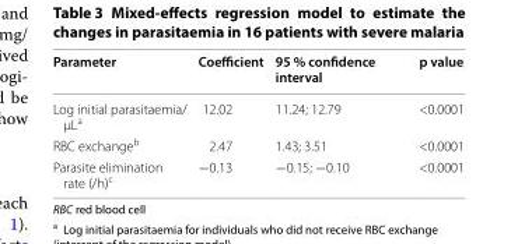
<table><thead><tr><td>Parameter</td><td>Coefficient</td><td>95 % confidence interval</td><td>p value</td></tr></thead><tbody><tr><td>Log initial parasitaemia/ µL<sup>a</sup></td><td>12.02</td><td>11.24; 12.79</td><td>&lt;0.0001</td></tr><tr><td>RBC exchange<sup>b</sup></td><td>2.47</td><td>1.43; 3.51</td><td>&lt;0.0001</td></tr><tr><td>Parasite elimination rate (/h)<sup>c</sup></td><td>−0.13</td><td>−0.15; −0.10</td><td>&lt;0.0001</td></tr></tbody></table>